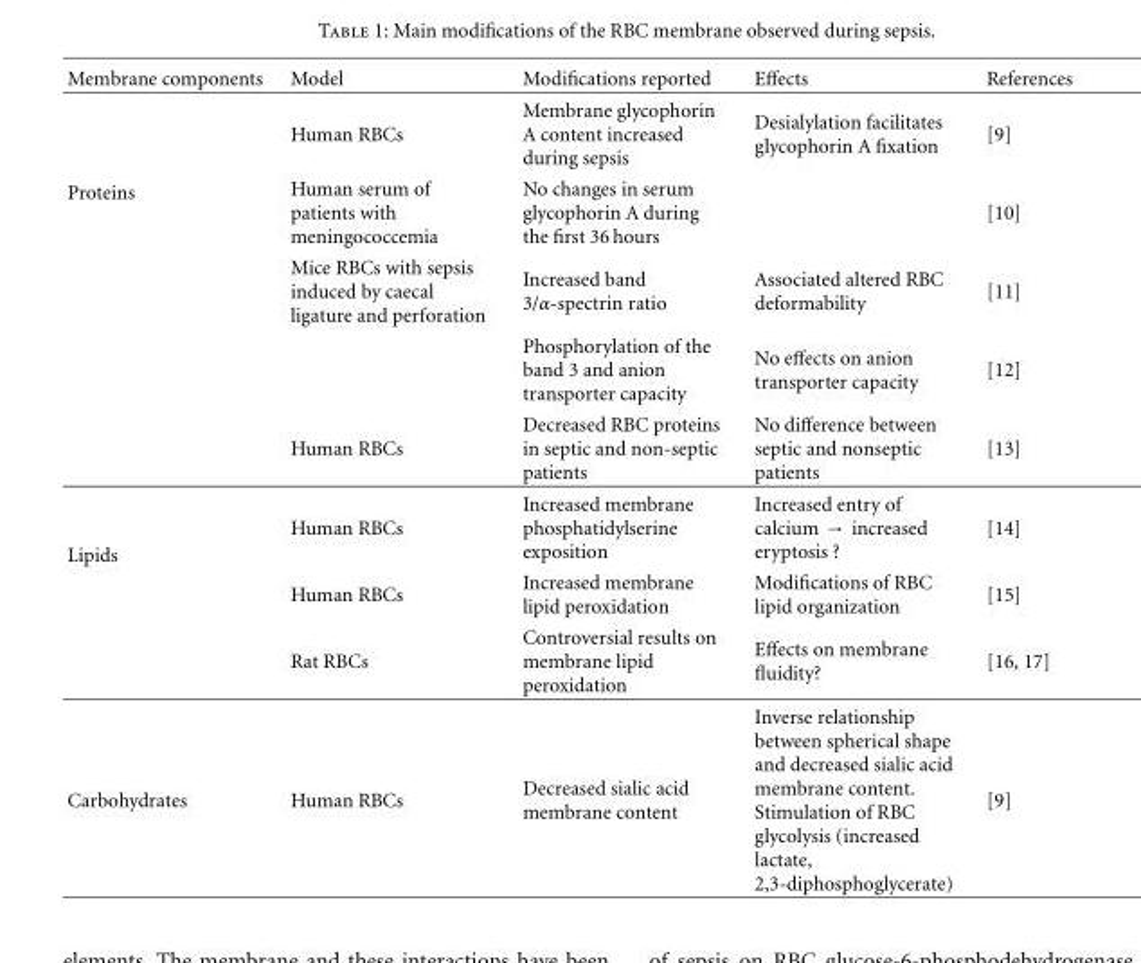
<table><thead><tr><td>Membrane components</td><td>Model</td><td>Modifications reported</td><td>Effects</td><td>References</td></tr></thead><tbody><tr><td rowspan="5">Proteins</td><td>Human RBCs</td><td>Membrane glycophorin A content increased during sepsis</td><td>Desialylation facilitates glycophorin A fixation</td><td>[9]</td></tr><tr><td>Human serum of patients with meningococcemia</td><td>No changes in serum glycophorin A during the first 36 hours</td><td></td><td>[10]</td></tr><tr><td>Mice RBCs with sepsis induced by caecal ligature and perforation</td><td>Increased band 3/α-spectrin ratio</td><td>Associated altered RBC deformability</td><td>[11]</td></tr><tr><td></td><td>Phosphorylation of the band 3 and anion transporter capacity</td><td>No effects on anion transporter capacity</td><td>[12]</td></tr><tr><td>Human RBCs</td><td>Decreased RBC proteins in septic and non-septic patients</td><td>No difference between septic and nonseptic patients</td><td>[13]</td></tr><tr><td rowspan="3">Lipids</td><td>Human RBCs</td><td>Increased membrane phosphatidylserine exposition</td><td>Increased entry of calcium → increased eryptosis ?</td><td>[14]</td></tr><tr><td>Human RBCs</td><td>Increased membrane lipid peroxidation</td><td>Modifications of RBC lipid organization</td><td>[15]</td></tr><tr><td>Rat RBCs</td><td>Controversial results on membrane lipid peroxidation</td><td>Effects on membrane fluidity?</td><td>[16, 17]</td></tr><tr><td>Carbohydrates</td><td>Human RBCs</td><td>Decreased sialic acid membrane content</td><td>Inverse relationship between spherical shape and decreased sialic acid membrane content. Stimulation of RBC glycolysis (increased lactate, 2,3-diphosphoglycerate)</td><td>[9]</td></tr></tbody></table>